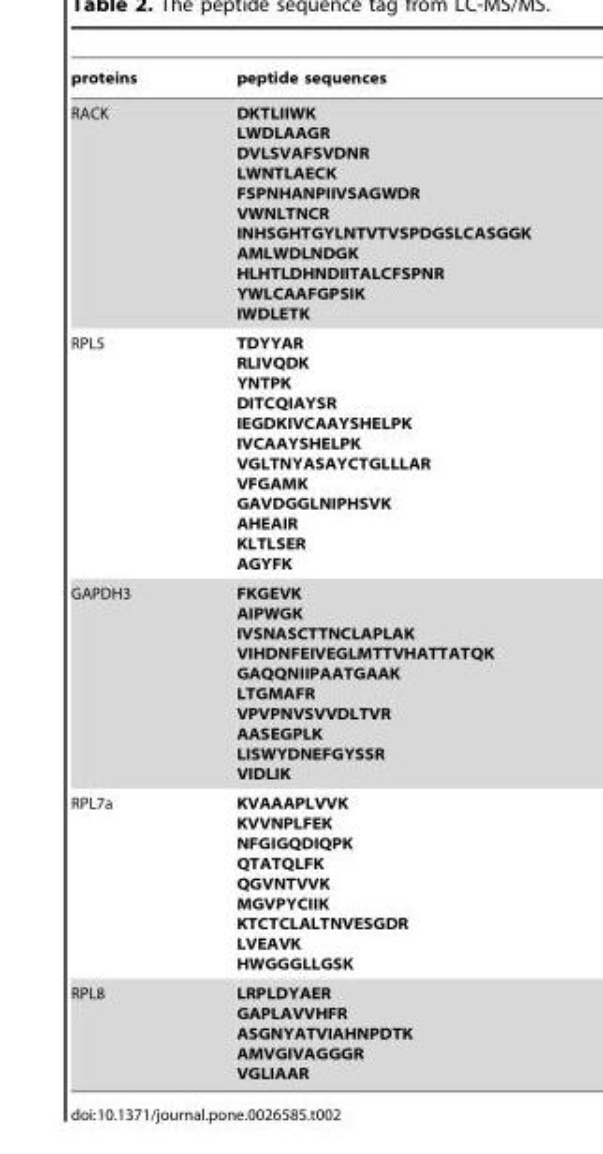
<table><thead><tr><td>proteins</td><td>peptide sequences</td></tr></thead><tbody><tr><td>RACK</td><td>DKTLIIWK LWDLAAGR DVLSVAFSVDNR LWNTLAECK FSPNHANPIIVSAGWDR VWNLTNCR INHSGHTGYLNTVTVSPDGSLCASGGK AMLWDLNDGK HLHTLDHNDIITALCFSPNR YWLCAAFGPSIK IWDLETK</td></tr><tr><td>RPL5</td><td>TDYYAR RLIVQDK YNTPK DITCQIAYSR IEGDKIVCAAYSHELPK IVCAAYSHELPK VGLTNYASAYCTGLLLAR VFGAMK GAVDGGLNIPHSVK AHEAIR KLTLSER AGYFK</td></tr><tr><td>GAPDH3</td><td>FKGEVK AIPWGK IVSNASCTTNCLAPLAK VIHDNFEIVEGLMTTVHATTATQK GAQQNIIPAATGAAK LTGMAFR VPVPNVSVVDLTVR AASEGPLK LISWYDNEFGYSSR VIDLIK</td></tr><tr><td>RPL7a</td><td>KVAAAPLVVK KVVNPLFEK NFGIGQDIQPK QTATQLFK QGVNTVVK MGVPYCIIK KTCTCLALTNVESGDR LVEAVK HWGGGLLGSK</td></tr><tr><td>RPL8</td><td>LRPLDYAER GAPLAVVHFR ASGNYATVIAHNPDTK AMVGIVAGGGR VGLIAAR</td></tr></tbody></table>